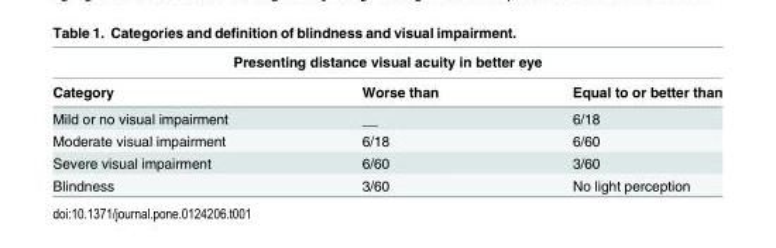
<table><thead><tr><td colspan="3">Presenting distance visual acuity in better eye</td></tr><tr><td>Category</td><td>Worse than</td><td>Equal to or better than</td></tr></thead><tbody><tr><td>Mild or no visual impairment</td><td>__</td><td>6/18</td></tr><tr><td>Moderate visual impairment</td><td>6/18</td><td>6/60</td></tr><tr><td>Severe visual impairment</td><td>6/60</td><td>3/60</td></tr><tr><td>Blindness</td><td>3/60</td><td>No light perception</td></tr></tbody></table>